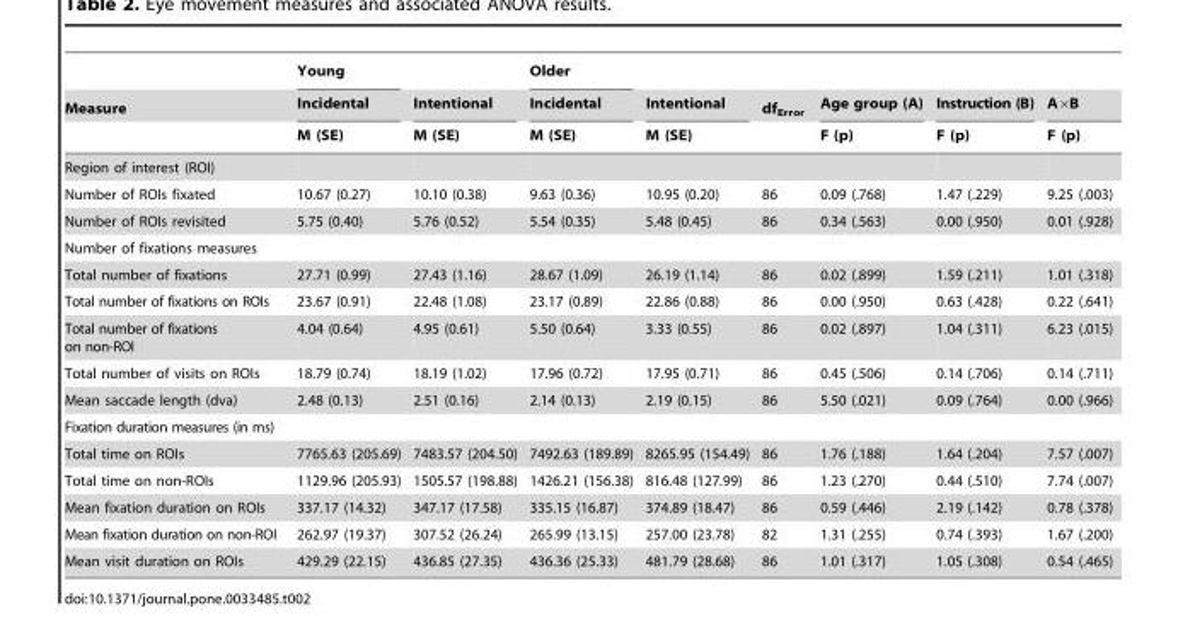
<table><thead><tr><td rowspan="3">Measure</td><td rowspan="3">Young Incidental M (SE)</td><td rowspan="3">Intentional M (SE)</td><td rowspan="3">Older Incidental M (SE)</td><td rowspan="3">Intentional M (SE)</td><td rowspan="3">df<sub>Error</sub></td><td rowspan="3">Age group (A) F (p)</td><td rowspan="3">Instruction (B) F (p)</td><td rowspan="3">A×B F (p)</td></tr><tr></tr><tr></tr></thead><tbody><tr><td colspan="9">Region of interest (ROI)</td></tr><tr><td>Number of ROIs fixated</td><td>10.67 (0.27)</td><td>10.10 (0.38)</td><td>9.63 (0.36)</td><td>10.95 (0.20)</td><td>86</td><td>0.09 (.768)</td><td>1.47 (.229)</td><td>9.25 (.003)</td></tr><tr><td>Number of ROIs revisited</td><td>5.75 (0.40)</td><td>5.76 (0.52)</td><td>5.54 (0.35)</td><td>5.48 (0.45)</td><td>86</td><td>0.34 (.563)</td><td>0.00 (.950)</td><td>0.01 (.928)</td></tr><tr><td colspan="9">Number of fixations measures</td></tr><tr><td>Total number of fixations</td><td>27.71 (0.99)</td><td>27.43 (1.16)</td><td>28.67 (1.09)</td><td>26.19 (1.14)</td><td>86</td><td>0.02 (.899)</td><td>1.59 (.211)</td><td>1.01 (.318)</td></tr><tr><td>Total number of fixations on ROIs</td><td>23.67 (0.91)</td><td>22.48 (1.08)</td><td>23.17 (0.89)</td><td>22.86 (0.88)</td><td>86</td><td>0.00 (.950)</td><td>0.63 (.428)</td><td>0.22 (.641)</td></tr><tr><td>Total number of fixations on non-ROI</td><td>4.04 (0.64)</td><td>4.95 (0.61)</td><td>5.50 (0.64)</td><td>3.33 (0.55)</td><td>86</td><td>0.02 (.897)</td><td>1.04 (.311)</td><td>6.23 (.015)</td></tr><tr><td>Total number of visits on ROIs</td><td>18.79 (0.74)</td><td>18.19 (1.02)</td><td>17.96 (0.72)</td><td>17.95 (0.71)</td><td>86</td><td>0.45 (.506)</td><td>0.14 (.706)</td><td>0.14 (.711)</td></tr><tr><td>Mean saccade length (dva)</td><td>2.48 (0.13)</td><td>2.51 (0.16)</td><td>2.14 (0.13)</td><td>2.19 (0.15)</td><td>86</td><td>5.50 (.021)</td><td>0.09 (.764)</td><td>0.00 (.966)</td></tr><tr><td colspan="9">Fixation duration measures (in ms)</td></tr><tr><td>Total time on ROIs</td><td>7765.63 (205.69)</td><td>7483.57 (204.50)</td><td>7492.63 (189.89)</td><td>8265.95 (154.49)</td><td>86</td><td>1.76 (.188)</td><td>1.64 (.204)</td><td>7.57 (.007)</td></tr><tr><td>Total time on non-ROIs</td><td>1129.96 (205.93)</td><td>1505.57 (198.88)</td><td>1426.21 (156.38)</td><td>816.48 (127.99)</td><td>86</td><td>1.23 (.270)</td><td>0.44 (.510)</td><td>7.74 (.007)</td></tr><tr><td>Mean fixation duration on ROIs</td><td>337.17 (14.32)</td><td>347.17 (17.58)</td><td>335.15 (16.87)</td><td>374.89 (18.47)</td><td>86</td><td>0.59 (.446)</td><td>2.19 (.142)</td><td>0.78 (.378)</td></tr><tr><td>Mean fixation duration on non-ROI</td><td>262.97 (19.37)</td><td>307.52 (26.24)</td><td>265.99 (13.15)</td><td>257.00 (23.78)</td><td>82</td><td>1.31 (.255)</td><td>0.74 (.393)</td><td>1.67 (.200)</td></tr><tr><td>Mean visit duration on ROIs</td><td>429.29 (22.15)</td><td>436.85 (27.35)</td><td>436.36 (25.33)</td><td>481.79 (28.68)</td><td>86</td><td>1.01 (.317)</td><td>1.05 (.308)</td><td>0.54 (.465)</td></tr></tbody></table>